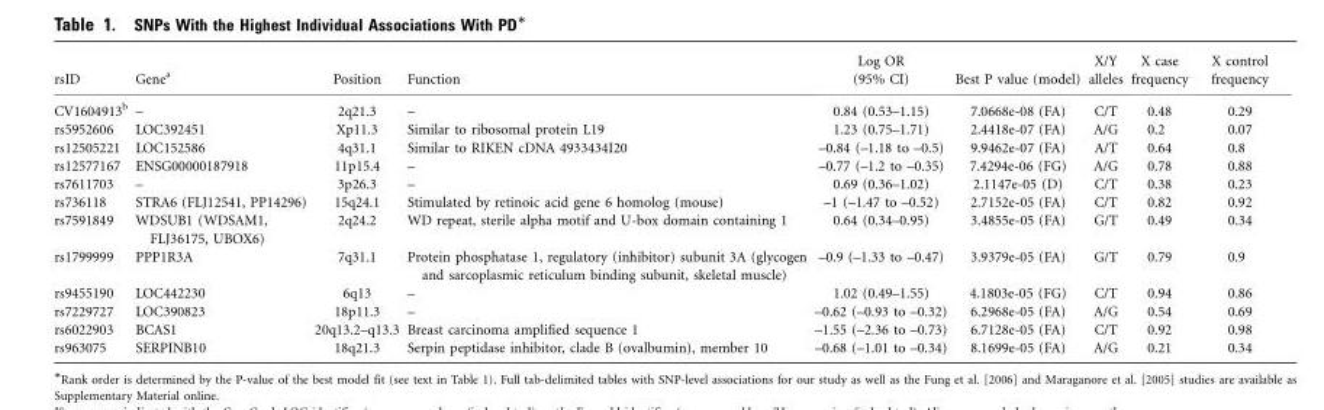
<table><thead><tr><td>rsID</td><td>Genea</td><td>Position</td><td>Function</td><td>Log OR (95% CI)</td><td>Best P value (model)</td><td>X/Y alleles</td><td>X case frequency</td><td>X control frequency</td></tr></thead><tbody><tr><td>CV1604913<sup>b</sup></td><td>–</td><td>2q21.3</td><td>–</td><td>0.84 (0.53–1.15)</td><td>7.0668e-08 (FA)</td><td>C/T</td><td>0.48</td><td>0.29</td></tr><tr><td>rs5952606</td><td>LOC392451</td><td>Xp11.3</td><td>Similar to ribosomal protein L19</td><td>1.23 (0.75–1.71)</td><td>2.4418e-07 (FA)</td><td>A/G</td><td>0.2</td><td>0.07</td></tr><tr><td>rs12505221</td><td>LOC152586</td><td>4q31.1</td><td>Similar to RIKEN cDNA 4933434I20</td><td>–0.84 (–1.18 to –0.5)</td><td>9.9462e-07 (FA)</td><td>A/T</td><td>0.64</td><td>0.8</td></tr><tr><td>rs12577167</td><td>ENSG00000187918</td><td>11p15.4</td><td>–</td><td>–0.77 (–1.2 to –0.35)</td><td>7.4294e-06 (FG)</td><td>A/G</td><td>0.78</td><td>0.88</td></tr><tr><td>rs7611703</td><td>–</td><td>3p26.3</td><td>–</td><td>0.69 (0.36–1.02)</td><td>2.1147e-05 (D)</td><td>C/T</td><td>0.38</td><td>0.23</td></tr><tr><td>rs736118</td><td>STRA6 (FLJ12541, PP14296)</td><td>15q24.1</td><td>Stimulated by retinoic acid gene 6 homolog (mouse)</td><td>–1 (–1.47 to –0.52)</td><td>2.7152e-05 (FA)</td><td>C/T</td><td>0.82</td><td>0.92</td></tr><tr><td>rs7591849</td><td>WDSUB1 (WDSAM1, FLJ36175, UBOX6)</td><td>2q24.2</td><td>WD repeat, sterile alpha motif and U-box domain containing 1</td><td>0.64 (0.34–0.95)</td><td>3.4855e-05 (FA)</td><td>G/T</td><td>0.49</td><td>0.34</td></tr><tr><td>rs1799999</td><td>PPP1R3A</td><td>7q31.1</td><td>Protein phosphatase 1, regulatory (inhibitor) subunit 3A (glycogen and sarcoplasmic reticulum binding subunit, skeletal muscle)</td><td>–0.9 (–1.33 to –0.47)</td><td>3.9379e-05 (FA)</td><td>G/T</td><td>0.79</td><td>0.9</td></tr><tr><td>rs9455190</td><td>LOC442230</td><td>6q13</td><td>–</td><td>1.02 (0.49–1.55)</td><td>4.1803e-05 (FG)</td><td>C/T</td><td>0.94</td><td>0.86</td></tr><tr><td>rs7229727</td><td>LOC390823</td><td>18p11.3</td><td>–</td><td>–0.62 (–0.93 to –0.32)</td><td>6.2968e-05 (FA)</td><td>A/G</td><td>0.54</td><td>0.69</td></tr><tr><td>rs6022903</td><td>BCAS1</td><td>20q13.2–q13.3</td><td>Breast carcinoma amplified sequence 1</td><td>–1.55 (–2.36 to –0.73)</td><td>6.7128e-05 (FA)</td><td>C/T</td><td>0.92</td><td>0.98</td></tr><tr><td>rs963075</td><td>SERPINB10</td><td>18q21.3</td><td>Serpin peptidase inhibitor, clade B (ovalbumin), member 10</td><td>–0.68 (–1.01 to –0.34)</td><td>8.1699e-05 (FA)</td><td>A/G</td><td>0.21</td><td>0.34</td></tr></tbody></table>